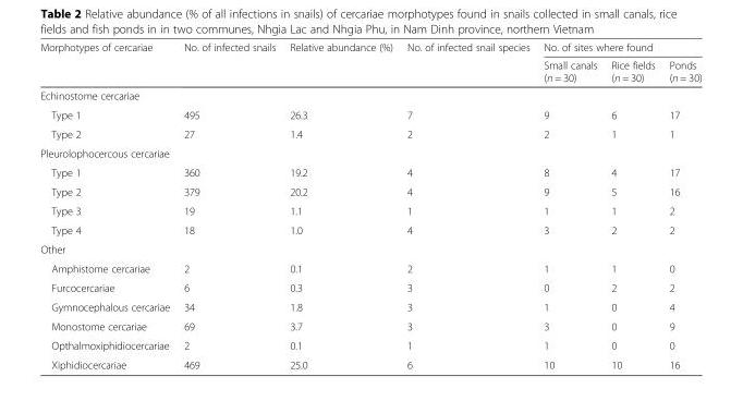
<table><thead><tr><td rowspan="2">Morphotypes of cercariae</td><td rowspan="2">No. of infected snails</td><td rowspan="2">Relative abundance (%)</td><td rowspan="2">No. of infected snail species</td><td colspan="3">No. of sites where found</td></tr><tr><td>Small canals (n = 30)</td><td>Rice fields (n = 30)</td><td>Ponds (n = 30)</td></tr></thead><tbody><tr><td colspan="7">Echinostome cercariae</td></tr><tr><td>Type 1</td><td>495</td><td>26.3</td><td>7</td><td>9</td><td>6</td><td>17</td></tr><tr><td>Type 2</td><td>27</td><td>1.4</td><td>2</td><td>2</td><td>1</td><td>1</td></tr><tr><td colspan="7">Pleurolophocercous cercariae</td></tr><tr><td>Type 1</td><td>360</td><td>19.2</td><td>4</td><td>8</td><td>4</td><td>17</td></tr><tr><td>Type 2</td><td>379</td><td>20.2</td><td>4</td><td>9</td><td>5</td><td>16</td></tr><tr><td>Type 3</td><td>19</td><td>1.1</td><td>1</td><td>1</td><td>1</td><td>2</td></tr><tr><td>Type 4</td><td>18</td><td>1.0</td><td>4</td><td>3</td><td>2</td><td>2</td></tr><tr><td colspan="7">Other</td></tr><tr><td>Amphistome cercariae</td><td>2</td><td>0.1</td><td>2</td><td>1</td><td>1</td><td>0</td></tr><tr><td>Furcocercariae</td><td>6</td><td>0.3</td><td>3</td><td>0</td><td>2</td><td>2</td></tr><tr><td>Gymnocephalous cercariae</td><td>34</td><td>1.8</td><td>3</td><td>1</td><td>0</td><td>4</td></tr><tr><td>Monostome cercariae</td><td>69</td><td>3.7</td><td>3</td><td>3</td><td>0</td><td>9</td></tr><tr><td>Opthalmoxiphidiocercariae</td><td>2</td><td>0.1</td><td>1</td><td>1</td><td>0</td><td>0</td></tr><tr><td>Xiphidiocercariae</td><td>469</td><td>25.0</td><td>6</td><td>10</td><td>10</td><td>16</td></tr></tbody></table>